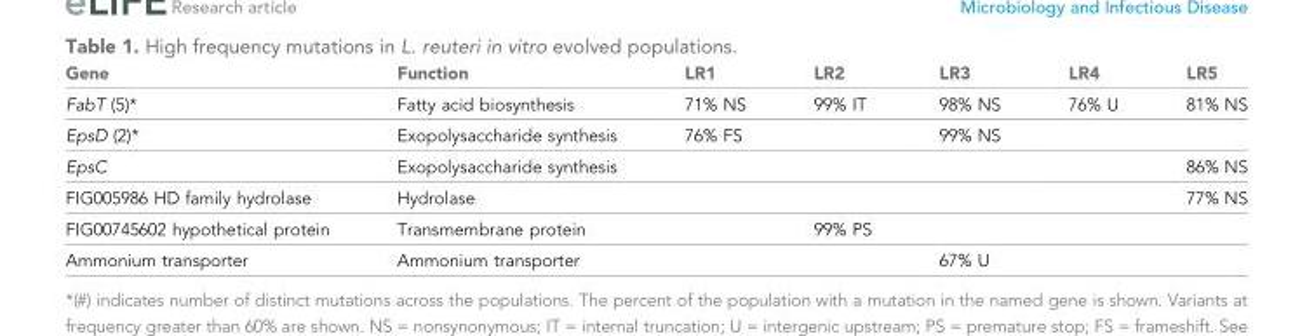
<table><thead><tr><td>Gene</td><td>Function</td><td>LR1</td><td>LR2</td><td>LR3</td><td>LR4</td><td>LR5</td></tr></thead><tbody><tr><td>FabT (5)*</td><td>Fatty acid biosynthesis</td><td>71% NS</td><td>99% IT</td><td>98% NS</td><td>76% U</td><td>81% NS</td></tr><tr><td>EpsD (2)*</td><td>Exopolysaccharide synthesis</td><td>76% FS</td><td></td><td>99% NS</td><td></td><td></td></tr><tr><td>EpsC</td><td>Exopolysaccharide synthesis</td><td></td><td></td><td></td><td></td><td>86% NS</td></tr><tr><td>FIG005986 HD family hydrolase</td><td>Hydrolase</td><td></td><td></td><td></td><td></td><td>77% NS</td></tr><tr><td>FIG00745602 hypothetical protein</td><td>Transmembrane protein</td><td></td><td>99% PS</td><td></td><td></td><td></td></tr><tr><td>Ammonium transporter</td><td>Ammonium transporter</td><td></td><td></td><td>67% U</td><td></td><td></td></tr></tbody></table>